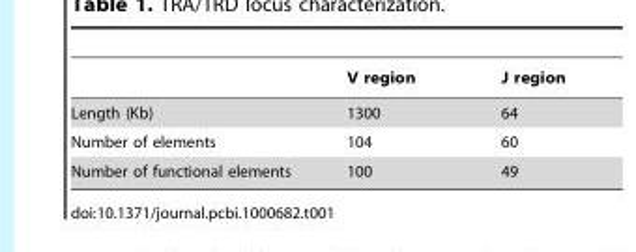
<table><thead><tr><td></td><td>V region</td><td>J region</td></tr></thead><tbody><tr><td>Length (Kb)</td><td>1300</td><td>64</td></tr><tr><td>Number of elements</td><td>104</td><td>60</td></tr><tr><td>Number of functional elements</td><td>100</td><td>49</td></tr></tbody></table>